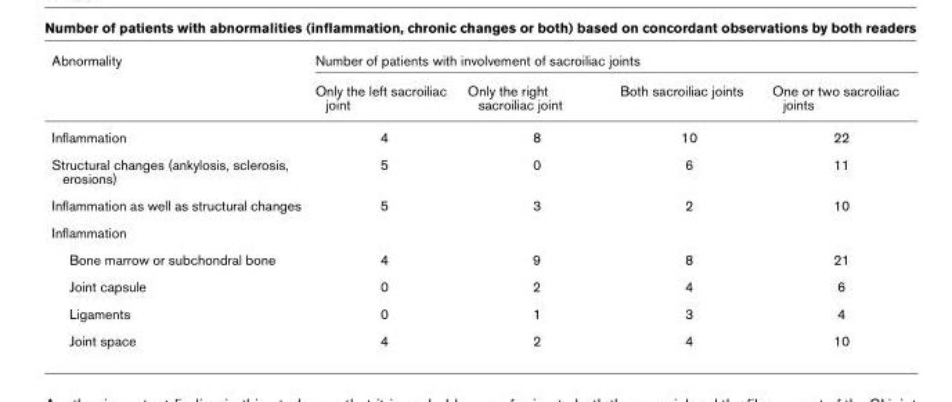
<table><thead><tr><td rowspan="2">Abnormality</td><td colspan="4">Number of patients with involvement of sacroiliac joints</td></tr><tr><td>Only the left sacroiliac joint</td><td>Only the right sacroiliac joint</td><td>Both sacroiliac joints</td><td>One or two sacroiliac joints</td></tr></thead><tbody><tr><td>Inflammation</td><td>4</td><td>8</td><td>10</td><td>22</td></tr><tr><td>Structural changes (ankylosis, sclerosis, erosions)</td><td>5</td><td>0</td><td>6</td><td>11</td></tr><tr><td>Inflammation as well as structural changes</td><td>5</td><td>3</td><td>2</td><td>10</td></tr><tr><td colspan="5">Inflammation</td></tr><tr><td>Bone marrow or subchondral bone</td><td>4</td><td>9</td><td>8</td><td>21</td></tr><tr><td>Joint capsule</td><td>0</td><td>2</td><td>4</td><td>6</td></tr><tr><td>Ligaments</td><td>0</td><td>1</td><td>3</td><td>4</td></tr><tr><td>Joint space</td><td>4</td><td>2</td><td>4</td><td>10</td></tr></tbody></table>